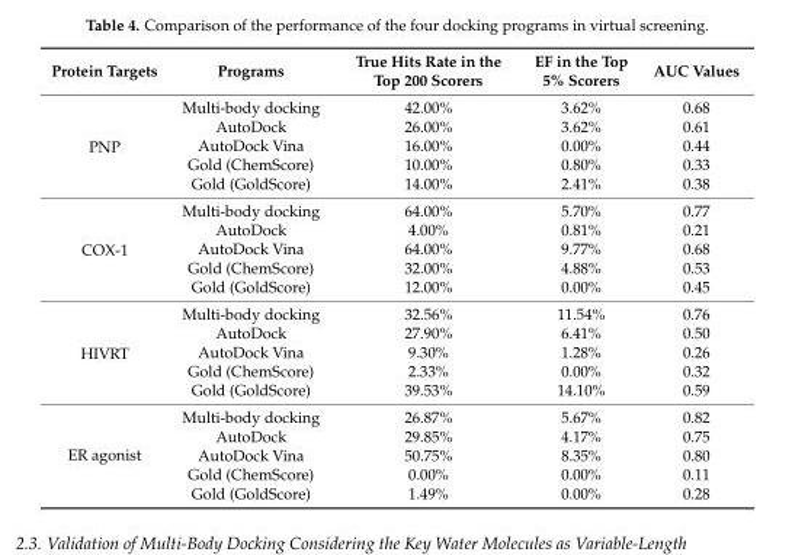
<table><thead><tr><td>Protein Targets</td><td>Programs</td><td>True Hits Rate in the Top 200 Scorers</td><td>EF in the Top 5% Scorers</td><td>AUC Values</td></tr></thead><tbody><tr><td rowspan="5">PNP</td><td>Multi-body docking</td><td>42.00%</td><td>3.62%</td><td>0.68</td></tr><tr><td>AutoDock</td><td>26.00%</td><td>3.62%</td><td>0.61</td></tr><tr><td>AutoDock Vina</td><td>16.00%</td><td>0.00%</td><td>0.44</td></tr><tr><td>Gold (ChemScore)</td><td>10.00%</td><td>0.80%</td><td>0.33</td></tr><tr><td>Gold (GoldScore)</td><td>14.00%</td><td>2.41%</td><td>0.38</td></tr><tr><td rowspan="5">COX-1</td><td>Multi-body docking</td><td>64.00%</td><td>5.70%</td><td>0.77</td></tr><tr><td>AutoDock</td><td>4.00%</td><td>0.81%</td><td>0.21</td></tr><tr><td>AutoDock Vina</td><td>64.00%</td><td>9.77%</td><td>0.68</td></tr><tr><td>Gold (ChemScore)</td><td>32.00%</td><td>4.88%</td><td>0.53</td></tr><tr><td>Gold (GoldScore)</td><td>12.00%</td><td>0.00%</td><td>0.45</td></tr><tr><td rowspan="5">HIVRT</td><td>Multi-body docking</td><td>32.56%</td><td>11.54%</td><td>0.76</td></tr><tr><td>AutoDock</td><td>27.90%</td><td>6.41%</td><td>0.50</td></tr><tr><td>AutoDock Vina</td><td>9.30%</td><td>1.28%</td><td>0.26</td></tr><tr><td>Gold (ChemScore)</td><td>2.33%</td><td>0.00%</td><td>0.32</td></tr><tr><td>Gold (GoldScore)</td><td>39.53%</td><td>14.10%</td><td>0.59</td></tr><tr><td rowspan="5">ER agonist</td><td>Multi-body docking</td><td>26.87%</td><td>5.67%</td><td>0.82</td></tr><tr><td>AutoDock</td><td>29.85%</td><td>4.17%</td><td>0.75</td></tr><tr><td>AutoDock Vina</td><td>50.75%</td><td>8.35%</td><td>0.80</td></tr><tr><td>Gold (ChemScore)</td><td>0.00%</td><td>0.00%</td><td>0.11</td></tr><tr><td>Gold (GoldScore)</td><td>1.49%</td><td>0.00%</td><td>0.28</td></tr></tbody></table>